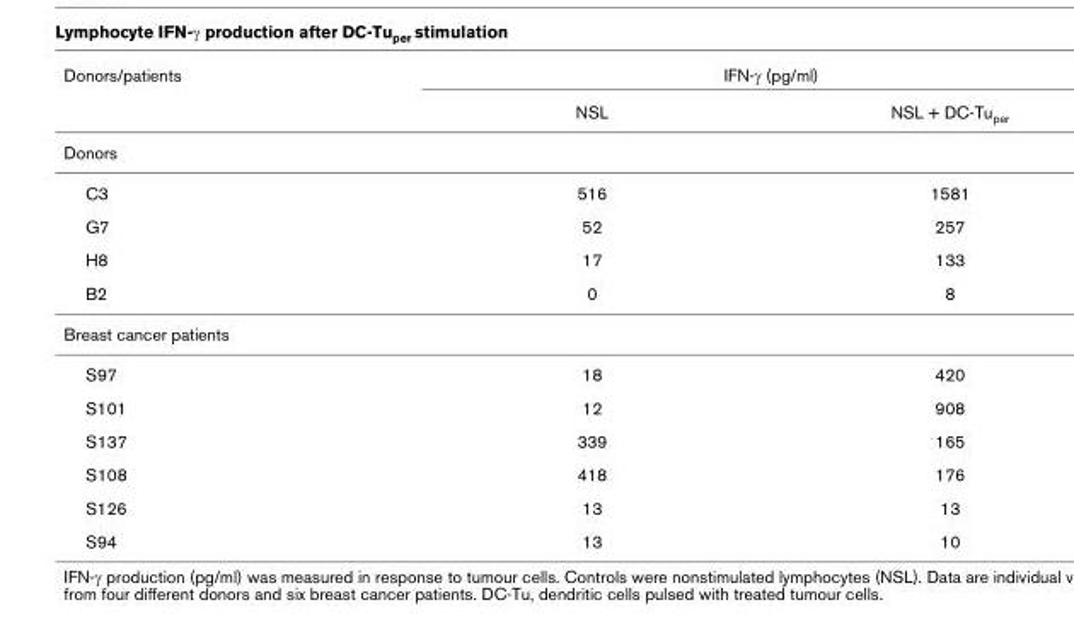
<table><thead><tr><td rowspan="2">Donors/patients</td><td colspan="2">IFN-γ (pg/ml)</td></tr><tr><td>NSL</td><td>NSL + DC-Tuper</td></tr></thead><tbody><tr><td colspan="3">Donors</td></tr><tr><td>C3</td><td>516</td><td>1581</td></tr><tr><td>G7</td><td>52</td><td>257</td></tr><tr><td>H8</td><td>17</td><td>133</td></tr><tr><td>B2</td><td>0</td><td>8</td></tr><tr><td colspan="3">Breast cancer patients</td></tr><tr><td>S97</td><td>18</td><td>420</td></tr><tr><td>S101</td><td>12</td><td>908</td></tr><tr><td>S137</td><td>339</td><td>165</td></tr><tr><td>S108</td><td>418</td><td>176</td></tr><tr><td>S126</td><td>13</td><td>13</td></tr><tr><td>S94</td><td>13</td><td>10</td></tr></tbody></table>